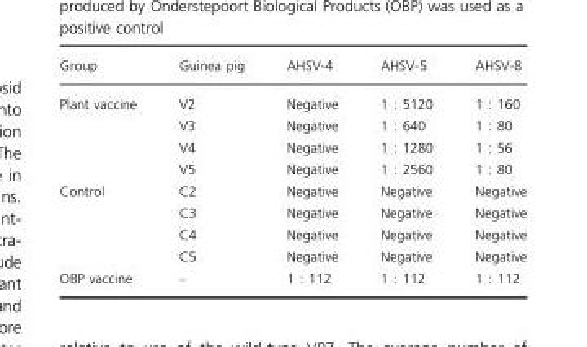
<table><thead><tr><td>Group</td><td>Guinea pig</td><td>AHSV-4</td><td>AHSV-5</td><td>AHSV-8</td></tr></thead><tbody><tr><td rowspan="4">Plant vaccine</td><td>V2</td><td>Negative</td><td>1 : 5120</td><td>1 : 160</td></tr><tr><td>V3</td><td>Negative</td><td>1 : 640</td><td>1 : 80</td></tr><tr><td>V4</td><td>Negative</td><td>1 : 1280</td><td>1 : 56</td></tr><tr><td>V5</td><td>Negative</td><td>1 : 2560</td><td>1 : 80</td></tr><tr><td rowspan="4">Control</td><td>C2</td><td>Negative</td><td>Negative</td><td>Negative</td></tr><tr><td>C3</td><td>Negative</td><td>Negative</td><td>Negative</td></tr><tr><td>C4</td><td>Negative</td><td>Negative</td><td>Negative</td></tr><tr><td>C5</td><td>Negative</td><td>Negative</td><td>Negative</td></tr><tr><td>OBP vaccine</td><td>–</td><td>1 : 112</td><td>1 : 112</td><td>1 : 112</td></tr></tbody></table>